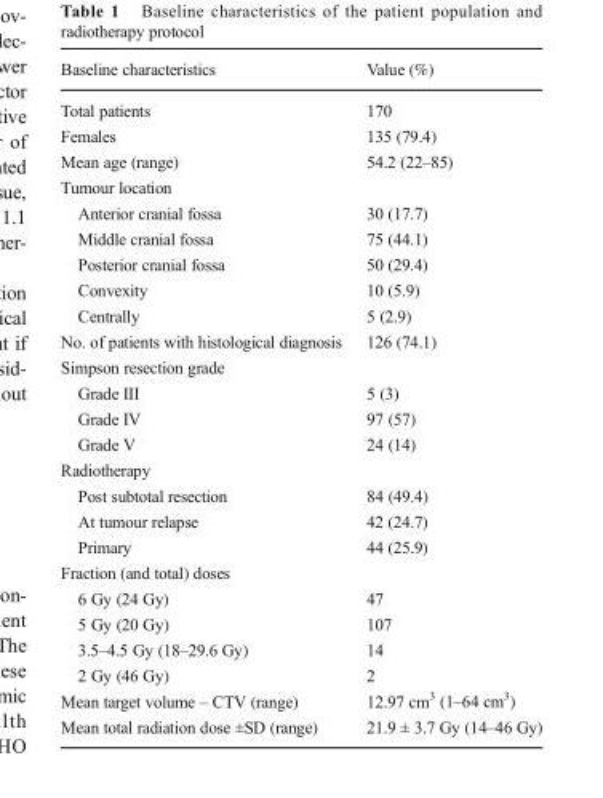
<table><thead><tr><td>Baseline characteristics</td><td>Value (%)</td></tr></thead><tbody><tr><td>Total patients</td><td>170</td></tr><tr><td>Females</td><td>135 (79.4)</td></tr><tr><td>Mean age (range)</td><td>54.2 (22–85)</td></tr><tr><td colspan="2">Tumour location</td></tr><tr><td>Anterior cranial fossa</td><td>30 (17.7)</td></tr><tr><td>Middle cranial fossa</td><td>75 (44.1)</td></tr><tr><td>Posterior cranial fossa</td><td>50 (29.4)</td></tr><tr><td>Convexity</td><td>10 (5.9)</td></tr><tr><td>Centrally</td><td>5 (2.9)</td></tr><tr><td>No. of patients with histological diagnosis</td><td>126 (74.1)</td></tr><tr><td colspan="2">Simpson resection grade</td></tr><tr><td>Grade III</td><td>5 (3)</td></tr><tr><td>Grade IV</td><td>97 (57)</td></tr><tr><td>Grade V</td><td>24 (14)</td></tr><tr><td colspan="2">Radiotherapy</td></tr><tr><td>Post subtotal resection</td><td>84 (49.4)</td></tr><tr><td>At tumour relapse</td><td>42 (24.7)</td></tr><tr><td>Primary</td><td>44 (25.9)</td></tr><tr><td colspan="2">Fraction (and total) doses</td></tr><tr><td>6 Gy (24 Gy)</td><td>47</td></tr><tr><td>5 Gy (20 Gy)</td><td>107</td></tr><tr><td>3.5–4.5 Gy (18–29.6 Gy)</td><td>14</td></tr><tr><td>2 Gy (46 Gy)</td><td>2</td></tr><tr><td>Mean target volume – CTV (range)</td><td>12.97 cm<sup>3</sup> (1–64 cm<sup>3</sup>)</td></tr><tr><td>Mean total radiation dose ±SD (range)</td><td>21.9 ± 3.7 Gy (14–46 Gy)</td></tr></tbody></table>